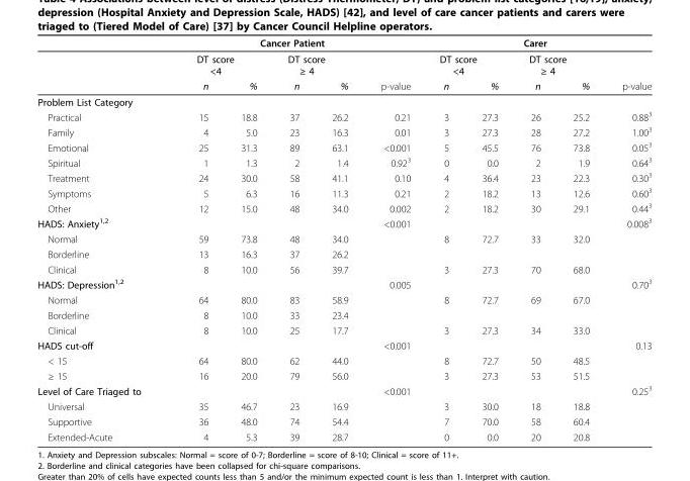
<table><thead><tr><td rowspan="3"></td><td colspan="5">Cancer Patient</td><td colspan="5">Carer</td></tr><tr><td colspan="2">DT score &lt;4</td><td colspan="2">DT score ≥ 4</td><td rowspan="2">p-value</td><td colspan="2">DT score &lt;4</td><td colspan="2">DT score ≥ 4</td><td rowspan="2">p-value</td></tr><tr><td>n</td><td>%</td><td>n</td><td>%</td><td>n</td><td>%</td><td>n</td><td>%</td></tr></thead><tbody><tr><td colspan="11">Problem List Category</td></tr><tr><td>Practical</td><td>15</td><td>18.8</td><td>37</td><td>26.2</td><td>0.21</td><td>3</td><td>27.3</td><td>26</td><td>25.2</td><td>0.88<sup>3</sup></td></tr><tr><td>Family</td><td>4</td><td>5.0</td><td>23</td><td>16.3</td><td>0.01</td><td>3</td><td>27.3</td><td>28</td><td>27.2</td><td>1.00<sup>3</sup></td></tr><tr><td>Emotional</td><td>25</td><td>31.3</td><td>89</td><td>63.1</td><td>&lt;0.001</td><td>5</td><td>45.5</td><td>76</td><td>73.8</td><td>0.05<sup>3</sup></td></tr><tr><td>Spiritual</td><td>1</td><td>1.3</td><td>2</td><td>1.4</td><td>0.92<sup>3</sup></td><td>0</td><td>0.0</td><td>2</td><td>1.9</td><td>0.64<sup>3</sup></td></tr><tr><td>Treatment</td><td>24</td><td>30.0</td><td>58</td><td>41.1</td><td>0.10</td><td>4</td><td>36.4</td><td>23</td><td>22.3</td><td>0.30<sup>3</sup></td></tr><tr><td>Symptoms</td><td>5</td><td>6.3</td><td>16</td><td>11.3</td><td>0.21</td><td>2</td><td>18.2</td><td>13</td><td>12.6</td><td>0.60<sup>3</sup></td></tr><tr><td>Other</td><td>12</td><td>15.0</td><td>48</td><td>34.0</td><td>0.002</td><td>2</td><td>18.2</td><td>30</td><td>29.1</td><td>0.44<sup>3</sup></td></tr><tr><td>HADS: Anxiety<sup>1,2</sup></td><td></td><td></td><td></td><td></td><td>&lt;0.001</td><td></td><td></td><td></td><td></td><td>0.008<sup>3</sup></td></tr><tr><td>Normal</td><td>59</td><td>73.8</td><td>48</td><td>34.0</td><td></td><td>8</td><td>72.7</td><td>33</td><td>32.0</td><td></td></tr><tr><td>Borderline</td><td>13</td><td>16.3</td><td>37</td><td>26.2</td><td></td><td></td><td></td><td></td><td></td><td></td></tr><tr><td>Clinical</td><td>8</td><td>10.0</td><td>56</td><td>39.7</td><td></td><td>3</td><td>27.3</td><td>70</td><td>68.0</td><td></td></tr><tr><td>HADS: Depression<sup>1,2</sup></td><td></td><td></td><td></td><td></td><td>0.005</td><td></td><td></td><td></td><td></td><td>0.70<sup>3</sup></td></tr><tr><td>Normal</td><td>64</td><td>80.0</td><td>83</td><td>58.9</td><td></td><td>8</td><td>72.7</td><td>69</td><td>67.0</td><td></td></tr><tr><td>Borderline</td><td>8</td><td>10.0</td><td>33</td><td>23.4</td><td></td><td></td><td></td><td></td><td></td><td></td></tr><tr><td>Clinical</td><td>8</td><td>10.0</td><td>25</td><td>17.7</td><td></td><td>3</td><td>27.3</td><td>34</td><td>33.0</td><td></td></tr><tr><td>HADS cut-off</td><td></td><td></td><td></td><td></td><td>&lt;0.001</td><td></td><td></td><td></td><td></td><td>0.13</td></tr><tr><td>&lt; 15</td><td>64</td><td>80.0</td><td>62</td><td>44.0</td><td></td><td>8</td><td>72.7</td><td>50</td><td>48.5</td><td></td></tr><tr><td>≥ 15</td><td>16</td><td>20.0</td><td>79</td><td>56.0</td><td></td><td>3</td><td>27.3</td><td>53</td><td>51.5</td><td></td></tr><tr><td>Level of Care Triaged to</td><td></td><td></td><td></td><td></td><td>&lt;0.001</td><td></td><td></td><td></td><td></td><td>0.25<sup>3</sup></td></tr><tr><td>Universal</td><td>35</td><td>46.7</td><td>23</td><td>16.9</td><td></td><td>3</td><td>30.0</td><td>18</td><td>18.8</td><td></td></tr><tr><td>Supportive</td><td>36</td><td>48.0</td><td>74</td><td>54.4</td><td></td><td>7</td><td>70.0</td><td>58</td><td>60.4</td><td></td></tr><tr><td>Extended-Acute</td><td>4</td><td>5.3</td><td>39</td><td>28.7</td><td></td><td>0</td><td>0.0</td><td>20</td><td>20.8</td><td></td></tr></tbody></table>